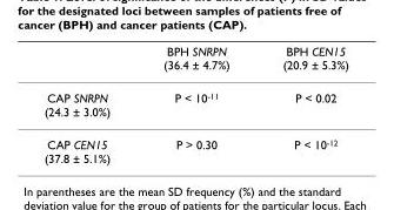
<table><thead><tr><td></td><td>BPH SNRPN (36.4 ± 4.7%)</td><td>BPH CEN15 (20.9 ± 5.3%)</td></tr></thead><tbody><tr><td>CAP SNRPN (24.3 ± 3.0%)</td><td>P &lt; 10<sup>-11</sup></td><td>P &lt; 0.02</td></tr><tr><td>CAP CEN15 (37.8 ± 5.1%)</td><td>P &gt; 0.30</td><td>P &lt; 10<sup>-12</sup></td></tr></tbody></table>